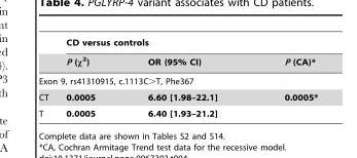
<table><thead><tr><td rowspan="2"></td><td colspan="3">CD versus controls</td></tr><tr><td>P (χ<sup>2</sup>)</td><td>OR (95% CI)</td><td>P (CA)*</td></tr></thead><tbody><tr><td colspan="4">Exon 9, rs41310915, c.1113C&gt;T, Phe367</td></tr><tr><td>CT</td><td>0.0005</td><td>6.60 [1.98–22.1]</td><td>0.0005*</td></tr><tr><td>T</td><td>0.0005</td><td>6.40 [1.93–21.2]</td><td></td></tr></tbody></table>